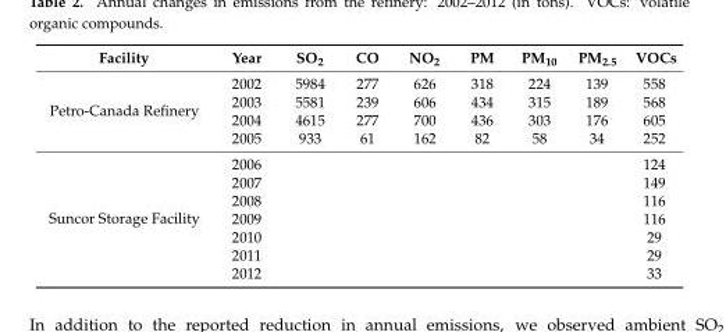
<table><thead><tr><td>Facility</td><td>Year</td><td>SO<sub>2</sub></td><td>CO</td><td>NO<sub>2</sub></td><td>PM</td><td>PM<sub>10</sub></td><td>PM<sub>2.5</sub></td><td>VOCs</td></tr></thead><tbody><tr><td rowspan="4">Petro-Canada Refinery</td><td>2002</td><td>5984</td><td>277</td><td>626</td><td>318</td><td>224</td><td>139</td><td>558</td></tr><tr><td>2003</td><td>5581</td><td>239</td><td>606</td><td>434</td><td>315</td><td>189</td><td>568</td></tr><tr><td>2004</td><td>4615</td><td>277</td><td>700</td><td>436</td><td>303</td><td>176</td><td>605</td></tr><tr><td>2005</td><td>933</td><td>61</td><td>162</td><td>82</td><td>58</td><td>34</td><td>252</td></tr><tr><td rowspan="7">Suncor Storage Facility</td><td>2006</td><td></td><td></td><td></td><td></td><td></td><td></td><td>124</td></tr><tr><td>2007</td><td></td><td></td><td></td><td></td><td></td><td></td><td>149</td></tr><tr><td>2008</td><td></td><td></td><td></td><td></td><td></td><td></td><td>116</td></tr><tr><td>2009</td><td></td><td></td><td></td><td></td><td></td><td></td><td>116</td></tr><tr><td>2010</td><td></td><td></td><td></td><td></td><td></td><td></td><td>29</td></tr><tr><td>2011</td><td></td><td></td><td></td><td></td><td></td><td></td><td>29</td></tr><tr><td>2012</td><td></td><td></td><td></td><td></td><td></td><td></td><td>33</td></tr></tbody></table>